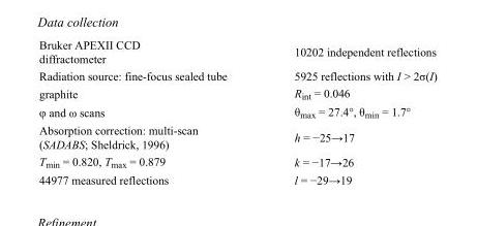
<table><tbody><tr><td>Bruker APEXII CCD diffractometer</td><td>10202 independent reflections</td></tr><tr><td>Radiation source: fine-focus sealed tube</td><td>5925 reflections with I &gt; 2σ(I)</td></tr><tr><td>graphite</td><td>R<sub>int</sub> = 0.046</td></tr><tr><td>φ and ω scans</td><td>θ<sub>max</sub> = 27.4°, θ<sub>min</sub> = 1.7°</td></tr><tr><td>Absorption correction: multi-scan (SADABS; Sheldrick, 1996)</td><td>h = −25→17</td></tr><tr><td>T<sub>min</sub> = 0.820, T<sub>max</sub> = 0.879</td><td>k = −17→26</td></tr><tr><td>44977 measured reflections</td><td>l = −29→19</td></tr></tbody></table>